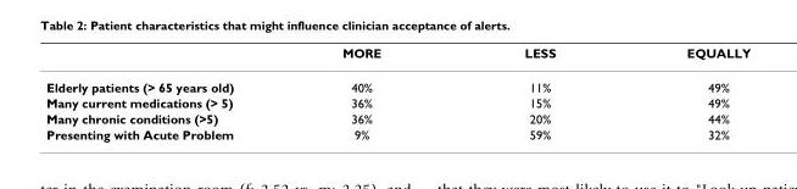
<table><thead><tr><td></td><td>MORE</td><td>LESS</td><td>EQUALLY</td></tr></thead><tbody><tr><td>Elderly patients (&gt; 65 years old)</td><td>40%</td><td>11%</td><td>49%</td></tr><tr><td>Many current medications (&gt; 5)</td><td>36%</td><td>15%</td><td>49%</td></tr><tr><td>Many chronic conditions (&gt;5)</td><td>36%</td><td>20%</td><td>44%</td></tr><tr><td>Presenting with Acute Problem</td><td>9%</td><td>59%</td><td>32%</td></tr></tbody></table>